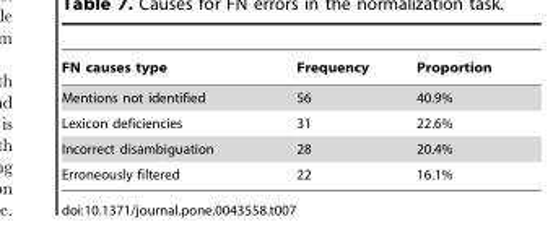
<table><thead><tr><td>FN causes type</td><td>Frequency</td><td>Proportion</td></tr></thead><tbody><tr><td>Mentions not identified</td><td>56</td><td>40.9%</td></tr><tr><td>Lexicon deficiencies</td><td>31</td><td>22.6%</td></tr><tr><td>Incorrect disambiguation</td><td>28</td><td>20.4%</td></tr><tr><td>Erroneously filtered</td><td>22</td><td>16.1%</td></tr></tbody></table>